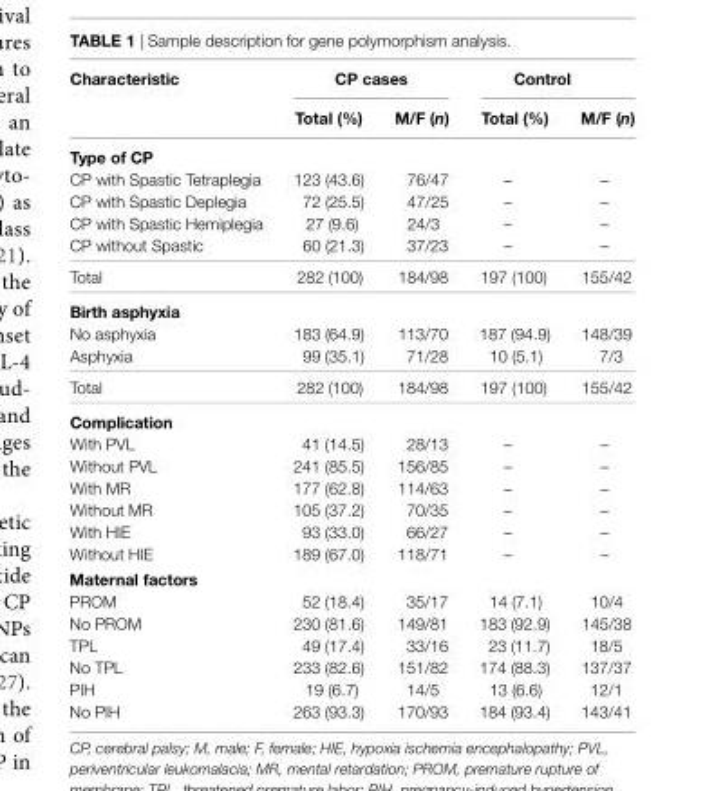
<table><thead><tr><td rowspan="2">characteristic</td><td colspan="2">cP cases</td><td colspan="2">control</td></tr><tr><td>Total (%)</td><td>M/F (n)</td><td>Total (%)</td><td>M/F (n)</td></tr></thead><tbody><tr><td colspan="5">Type of cP</td></tr><tr><td>CP with Spastic Tetraplegia</td><td>123 (43.6)</td><td>76/47</td><td>–</td><td>–</td></tr><tr><td>CP with Spastic Deplegia</td><td>72 (25.5)</td><td>47/25</td><td>–</td><td>–</td></tr><tr><td>CP with Spastic Hemiplegia</td><td>27 (9.6)</td><td>24/3</td><td>–</td><td>–</td></tr><tr><td>CP without Spastic</td><td>60 (21.3)</td><td>37/23</td><td>–</td><td>–</td></tr><tr><td>Total</td><td>282 (100)</td><td>184/98</td><td>197 (100)</td><td>155/42</td></tr><tr><td colspan="5">Birth asphyxia</td></tr><tr><td>No asphyxia</td><td>183 (64.9)</td><td>113/70</td><td>187 (94.9)</td><td>148/39</td></tr><tr><td>Asphyxia</td><td>99 (35.1)</td><td>71/28</td><td>10 (5.1)</td><td>7/3</td></tr><tr><td>Total</td><td>282 (100)</td><td>184/98</td><td>197 (100)</td><td>155/42</td></tr><tr><td colspan="5">complication</td></tr><tr><td>With PVL</td><td>41 (14.5)</td><td>28/13</td><td>–</td><td>–</td></tr><tr><td>Without PVL</td><td>241 (85.5)</td><td>156/85</td><td>–</td><td>–</td></tr><tr><td>With MR</td><td>177 (62.8)</td><td>114/63</td><td>–</td><td>–</td></tr><tr><td>Without MR</td><td>105 (37.2)</td><td>70/35</td><td>–</td><td>–</td></tr><tr><td>With HIE</td><td>93 (33.0)</td><td>66/27</td><td>–</td><td>–</td></tr><tr><td>Without HIE</td><td>189 (67.0)</td><td>118/71</td><td>–</td><td>–</td></tr><tr><td colspan="5">Maternal factors</td></tr><tr><td>PROM</td><td>52 (18.4)</td><td>35/17</td><td>14 (7.1)</td><td>10/4</td></tr><tr><td>No PROM</td><td>230 (81.6)</td><td>149/81</td><td>183 (92.9)</td><td>145/38</td></tr><tr><td>TPL</td><td>49 (17.4)</td><td>33/16</td><td>23 (11.7)</td><td>18/5</td></tr><tr><td>No TPL</td><td>233 (82.6)</td><td>151/82</td><td>174 (88.3)</td><td>137/37</td></tr><tr><td>PIH</td><td>19 (6.7)</td><td>14/5</td><td>13 (6.6)</td><td>12/1</td></tr><tr><td>No PIH</td><td>263 (93.3)</td><td>170/93</td><td>184 (93.4)</td><td>143/41</td></tr></tbody></table>